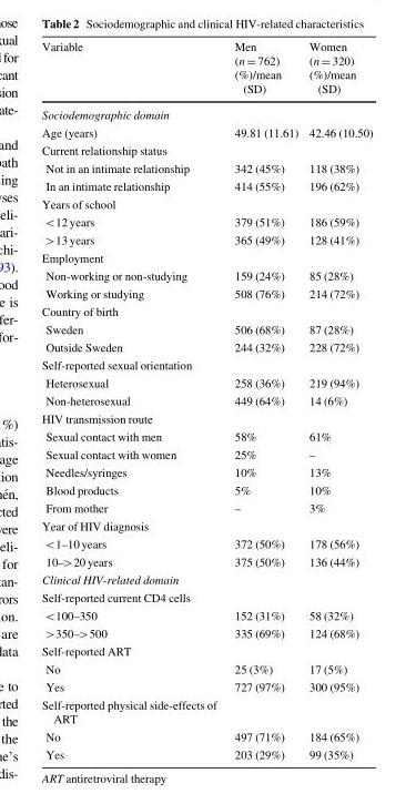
<table><thead><tr><td>Variable</td><td>Men (n = 762) (%)/mean (SD)</td><td>Women (n = 320) (%)/mean (SD)</td></tr></thead><tbody><tr><td colspan="3">Sociodemographic domain</td></tr><tr><td>Age (years)</td><td>49.81 (11.61)</td><td>42.46 (10.50)</td></tr><tr><td colspan="3">Current relationship status</td></tr><tr><td>Not in an intimate relationship</td><td>342 (45%)</td><td>118 (38%)</td></tr><tr><td>In an intimate relationship</td><td>414 (55%)</td><td>196 (62%)</td></tr><tr><td colspan="3">Years of school</td></tr><tr><td>&lt;12 years</td><td>379 (51%)</td><td>186 (59%)</td></tr><tr><td>&gt;13 years</td><td>365 (49%)</td><td>128 (41%)</td></tr><tr><td colspan="3">Employment</td></tr><tr><td>Non-working or non-studying</td><td>159 (24%)</td><td>85 (28%)</td></tr><tr><td>Working or studying</td><td>508 (76%)</td><td>214 (72%)</td></tr><tr><td colspan="3">Country of birth</td></tr><tr><td>Sweden</td><td>506 (68%)</td><td>87 (28%)</td></tr><tr><td>Outside Sweden</td><td>244 (32%)</td><td>228 (72%)</td></tr><tr><td colspan="3">Self-reported sexual orientation</td></tr><tr><td>Heterosexual</td><td>258 (36%)</td><td>219 (94%)</td></tr><tr><td>Non-heterosexual</td><td>449 (64%)</td><td>14 (6%)</td></tr><tr><td colspan="3">HIV transmission route</td></tr><tr><td>Sexual contact with men</td><td>58%</td><td>61%</td></tr><tr><td>Sexual contact with women</td><td>25%</td><td>–</td></tr><tr><td>Needles/syringes</td><td>10%</td><td>13%</td></tr><tr><td>Blood products</td><td>5%</td><td>10%</td></tr><tr><td>From mother</td><td>–</td><td>3%</td></tr><tr><td colspan="3">Year of HIV diagnosis</td></tr><tr><td>&lt;1–10 years</td><td>372 (50%)</td><td>178 (56%)</td></tr><tr><td>10–&gt;20 years</td><td>375 (50%)</td><td>136 (44%)</td></tr><tr><td colspan="3">Clinical HIV-related domain</td></tr><tr><td colspan="3">Self-reported current CD4 cells</td></tr><tr><td>&lt;100–350</td><td>152 (31%)</td><td>58 (32%)</td></tr><tr><td>&gt;350–&gt;500</td><td>335 (69%)</td><td>124 (68%)</td></tr><tr><td colspan="3">Self-reported ART</td></tr><tr><td>No</td><td>25 (3%)</td><td>17 (5%)</td></tr><tr><td>Yes</td><td>727 (97%)</td><td>300 (95%)</td></tr><tr><td colspan="3">Self-reported physical side-effects of ART</td></tr><tr><td>No</td><td>497 (71%)</td><td>184 (65%)</td></tr><tr><td>Yes</td><td>203 (29%)</td><td>99 (35%)</td></tr></tbody></table>